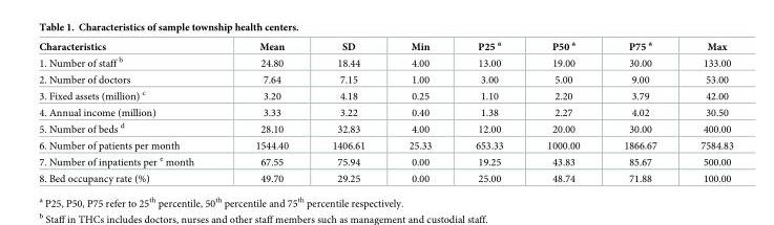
<table><thead><tr><td>Characteristics</td><td>Mean</td><td>SD</td><td>Min</td><td>P25 <sup>a</sup></td><td>P50 <sup>a</sup></td><td>P75 <sup>a</sup></td><td>Max</td></tr></thead><tbody><tr><td>1. Number of staff <sup>b</sup></td><td>24.80</td><td>18.44</td><td>4.00</td><td>13.00</td><td>19.00</td><td>30.00</td><td>133.00</td></tr><tr><td>2. Number of doctors</td><td>7.64</td><td>7.15</td><td>1.00</td><td>3.00</td><td>5.00</td><td>9.00</td><td>53.00</td></tr><tr><td>3. Fixed assets (million) <sup>c</sup></td><td>3.20</td><td>4.18</td><td>0.25</td><td>1.10</td><td>2.20</td><td>3.79</td><td>42.00</td></tr><tr><td>4. Annual income (million)</td><td>3.33</td><td>3.22</td><td>0.40</td><td>1.38</td><td>2.27</td><td>4.02</td><td>30.50</td></tr><tr><td>5. Number of beds <sup>d</sup></td><td>28.10</td><td>32.83</td><td>4.00</td><td>12.00</td><td>20.00</td><td>30.00</td><td>400.00</td></tr><tr><td>6. Number of patients per month</td><td>1544.40</td><td>1406.61</td><td>25.33</td><td>653.33</td><td>1000.00</td><td>1866.67</td><td>7584.83</td></tr><tr><td>7. Number of inpatients per <sup>e</sup> month</td><td>67.55</td><td>75.94</td><td>0.00</td><td>19.25</td><td>43.83</td><td>85.67</td><td>500.00</td></tr><tr><td>8. Bed occupancy rate (%)</td><td>49.70</td><td>29.25</td><td>0.00</td><td>25.00</td><td>48.74</td><td>71.88</td><td>100.00</td></tr></tbody></table>